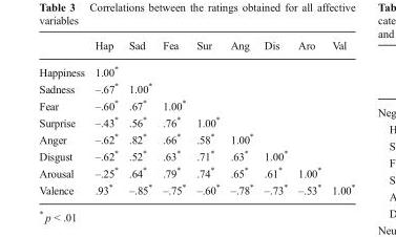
<table><thead><tr><td></td><td>Hap</td><td>Sad</td><td>Fea</td><td>Sur</td><td>Ang</td><td>Dis</td><td>Aro</td><td>Val</td></tr></thead><tbody><tr><td>Happiness</td><td>1.00*</td><td></td><td></td><td></td><td></td><td></td><td></td><td></td></tr><tr><td>Sadness</td><td>–.67*</td><td>1.00*</td><td></td><td></td><td></td><td></td><td></td><td></td></tr><tr><td>Fear</td><td>–.60*</td><td>.67*</td><td>1.00*</td><td></td><td></td><td></td><td></td><td></td></tr><tr><td>Surprise</td><td>–.43*</td><td>.56*</td><td>.76*</td><td>1.00*</td><td></td><td></td><td></td><td></td></tr><tr><td>Anger</td><td>–.62*</td><td>.82*</td><td>.66*</td><td>.58*</td><td>1.00*</td><td></td><td></td><td></td></tr><tr><td>Disgust</td><td>–.62*</td><td>.52*</td><td>.63*</td><td>.71*</td><td>.63*</td><td>1.00*</td><td></td><td></td></tr><tr><td>Arousal</td><td>–.25*</td><td>.64*</td><td>.79*</td><td>.74*</td><td>.65*</td><td>.61*</td><td>1.00*</td><td></td></tr><tr><td>Valence</td><td>.93*</td><td>–.85*</td><td>–.75*</td><td>–.60*</td><td>–.78*</td><td>–.73*</td><td>–.53*</td><td>1.00*</td></tr></tbody></table>